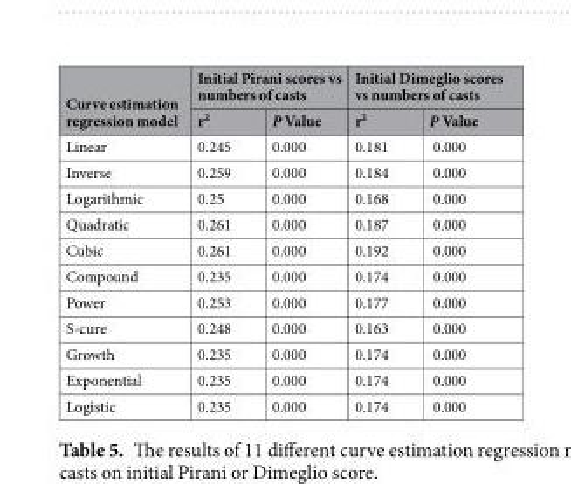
<table><thead><tr><td rowspan="2">Curve estimation regression model</td><td colspan="2">Initial Pirani scores vs numbers of casts</td><td colspan="2">Initial Dimeglio scores vs numbers of casts</td></tr><tr><td>r<sup>2</sup></td><td>P Value</td><td>r<sup>2</sup></td><td>P Value</td></tr></thead><tbody><tr><td>Linear</td><td>0.245</td><td>0.000</td><td>0.181</td><td>0.000</td></tr><tr><td>Inverse</td><td>0.259</td><td>0.000</td><td>0.184</td><td>0.000</td></tr><tr><td>Logarithmic</td><td>0.25</td><td>0.000</td><td>0.168</td><td>0.000</td></tr><tr><td>Quadratic</td><td>0.261</td><td>0.000</td><td>0.187</td><td>0.000</td></tr><tr><td>Cubic</td><td>0.261</td><td>0.000</td><td>0.192</td><td>0.000</td></tr><tr><td>Compound</td><td>0.235</td><td>0.000</td><td>0.174</td><td>0.000</td></tr><tr><td>Power</td><td>0.253</td><td>0.000</td><td>0.177</td><td>0.000</td></tr><tr><td>S-cure</td><td>0.248</td><td>0.000</td><td>0.163</td><td>0.000</td></tr><tr><td>Growth</td><td>0.235</td><td>0.000</td><td>0.174</td><td>0.000</td></tr><tr><td>Exponential</td><td>0.235</td><td>0.000</td><td>0.174</td><td>0.000</td></tr><tr><td>Logistic</td><td>0.235</td><td>0.000</td><td>0.174</td><td>0.000</td></tr></tbody></table>